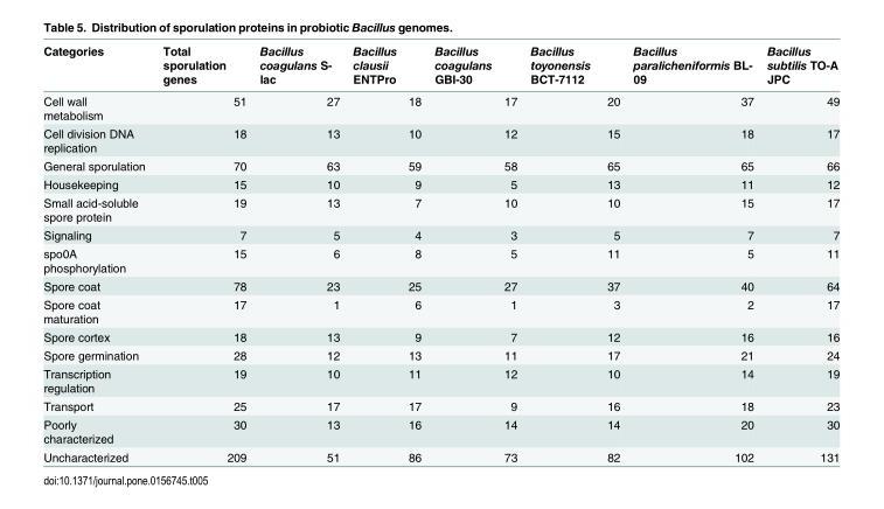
<table><thead><tr><td>Categories</td><td>Total sporulation genes</td><td>Bacillus coagulans S- lac</td><td>Bacillus clausii ENTPro</td><td>Bacillus coagulans GBI-30</td><td>Bacillus toyonensis BCT-7112</td><td>Bacillus paralicheniformis BL- 09</td><td>Bacillus subtilis TO-A JPC</td></tr></thead><tbody><tr><td>Cell wall metabolism</td><td>51</td><td>27</td><td>18</td><td>17</td><td>20</td><td>37</td><td>49</td></tr><tr><td>Cell division DNA replication</td><td>18</td><td>13</td><td>10</td><td>12</td><td>15</td><td>18</td><td>17</td></tr><tr><td>General sporulation</td><td>70</td><td>63</td><td>59</td><td>58</td><td>65</td><td>65</td><td>66</td></tr><tr><td>Housekeeping</td><td>15</td><td>10</td><td>9</td><td>5</td><td>13</td><td>11</td><td>12</td></tr><tr><td>Small acid-soluble spore protein</td><td>19</td><td>13</td><td>7</td><td>10</td><td>10</td><td>15</td><td>17</td></tr><tr><td>Signaling</td><td>7</td><td>5</td><td>4</td><td>3</td><td>5</td><td>7</td><td>7</td></tr><tr><td>spo0A phosphorylation</td><td>15</td><td>6</td><td>8</td><td>5</td><td>11</td><td>5</td><td>11</td></tr><tr><td>Spore coat</td><td>78</td><td>23</td><td>25</td><td>27</td><td>37</td><td>40</td><td>64</td></tr><tr><td>Spore coat maturation</td><td>17</td><td>1</td><td>6</td><td>1</td><td>3</td><td>2</td><td>17</td></tr><tr><td>Spore cortex</td><td>18</td><td>13</td><td>9</td><td>7</td><td>12</td><td>16</td><td>16</td></tr><tr><td>Spore germination</td><td>28</td><td>12</td><td>13</td><td>11</td><td>17</td><td>21</td><td>24</td></tr><tr><td>Transcription regulation</td><td>19</td><td>10</td><td>11</td><td>12</td><td>10</td><td>14</td><td>19</td></tr><tr><td>Transport</td><td>25</td><td>17</td><td>17</td><td>9</td><td>16</td><td>18</td><td>23</td></tr><tr><td>Poorly characterized</td><td>30</td><td>13</td><td>16</td><td>14</td><td>14</td><td>20</td><td>30</td></tr><tr><td>Uncharacterized</td><td>209</td><td>51</td><td>86</td><td>73</td><td>82</td><td>102</td><td>131</td></tr></tbody></table>